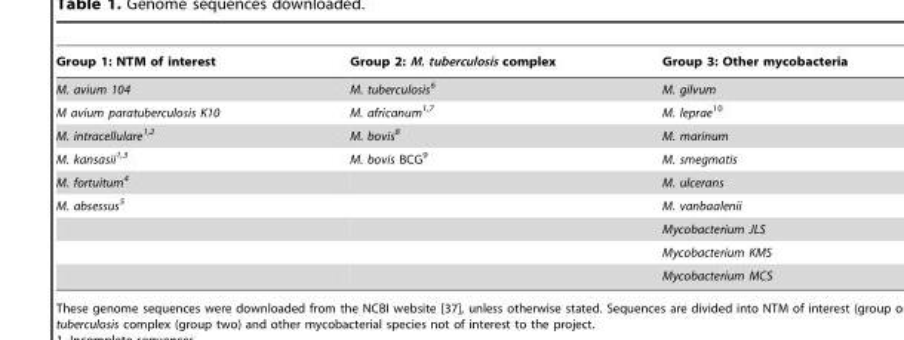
<table><thead><tr><td>Group 1: NTM of interest</td><td>Group 2: M. tuberculosis complex</td><td>Group 3: Other mycobacteria</td></tr></thead><tbody><tr><td>M. avium 104</td><td>M. tuberculosis<sup>6</sup></td><td>M. gilvum</td></tr><tr><td>M avium paratuberculosis K10</td><td>M. africanum<sup>1,7</sup></td><td>M. leprae<sup>10</sup></td></tr><tr><td>M. intracellulare<sup>1,2</sup></td><td>M. bovis<sup>8</sup></td><td>M. marinum</td></tr><tr><td>M. kansasii<sup>1,3</sup></td><td>M. bovis BCG<sup>9</sup></td><td>M. smegmatis</td></tr><tr><td>M. fortuitum<sup>4</sup></td><td></td><td>M. ulcerans</td></tr><tr><td rowspan="4">M. absessus<sup>5</sup></td><td></td><td>M. vanbaalenii</td></tr><tr><td></td><td>Mycobacterium JLS</td></tr><tr><td></td><td>Mycobacterium KMS</td></tr><tr><td></td><td>Mycobacterium MCS</td></tr></tbody></table>